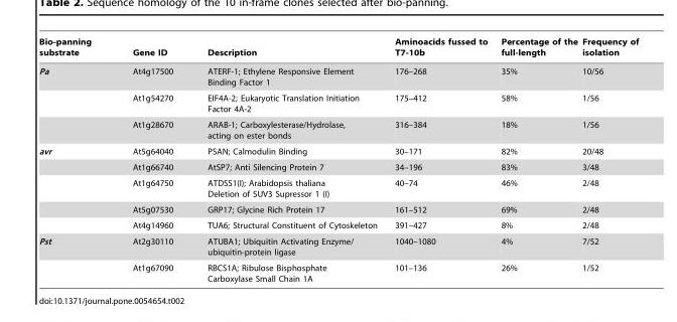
<table><thead><tr><td>Bio-panning substrate</td><td>Gene ID</td><td>Description</td><td>Aminoacids fussed to T7-10b</td><td>Percentage of the full-length</td><td>Frequency of isolation</td></tr></thead><tbody><tr><td rowspan="3">Pa</td><td>At4g17500</td><td>ATERF-1; Ethylene Responsive Element Binding Factor 1</td><td>176–268</td><td>35%</td><td>10/56</td></tr><tr><td>At1g54270</td><td>EIF4A-2; Eukaryotic Translation Initiation Factor 4A-2</td><td>175–412</td><td>58%</td><td>1/56</td></tr><tr><td>At1g28670</td><td>ARAB-1; Carboxylesterase/Hydrolase, acting on ester bonds</td><td>316–384</td><td>18%</td><td>1/56</td></tr><tr><td rowspan="5">avr</td><td>At5g64040</td><td>PSAN; Calmodulin Binding</td><td>30–171</td><td>82%</td><td>20/48</td></tr><tr><td>At1g66740</td><td>AtSP7; Anti Silencing Protein 7</td><td>34–196</td><td>83%</td><td>3/48</td></tr><tr><td>At1g64750</td><td>ATDSS1(I); Arabidopsis thaliana Deletion of SUV3 Supressor 1 (I)</td><td>40–74</td><td>46%</td><td>2/48</td></tr><tr><td>At5g07530</td><td>GRP17; Glycine Rich Protein 17</td><td>161–512</td><td>69%</td><td>2/48</td></tr><tr><td>At4g14960</td><td>TUA6; Structural Constituent of Cytoskeleton</td><td>391–427</td><td>8%</td><td>2/48</td></tr><tr><td rowspan="2">Pst</td><td>At2g30110</td><td>ATUBA1; Ubiquitin Activating Enzyme/ ubiquitin-protein ligase</td><td>1040–1080</td><td>4%</td><td>7/52</td></tr><tr><td>At1g67090</td><td>RBCS1A; Ribulose Bisphosphate Carboxylase Small Chain 1A</td><td>101–136</td><td>26%</td><td>1/52</td></tr></tbody></table>